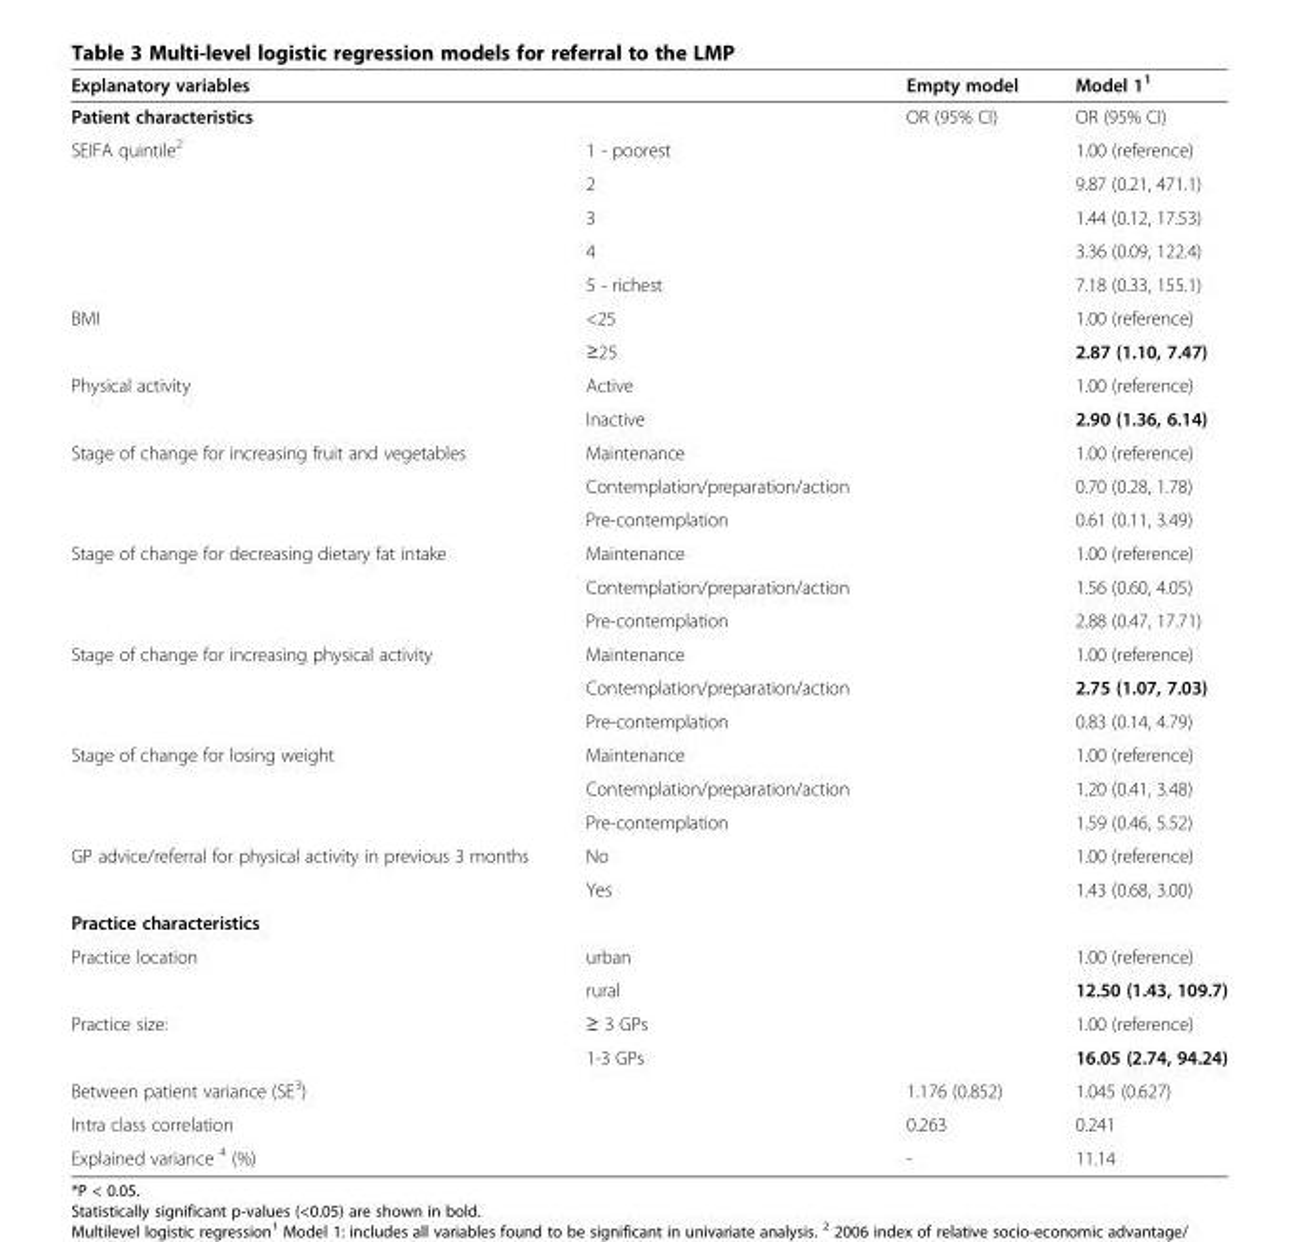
<table><thead><tr><td>Explanatory variables</td><td></td><td>Empty model</td><td>Model 1<sup>1</sup></td></tr></thead><tbody><tr><td>Patient characteristics</td><td></td><td>OR (95% CI)</td><td>OR (95% CI)</td></tr><tr><td rowspan="5">SEIFA quintile<sup>2</sup></td><td>1 - poorest</td><td></td><td>1.00 (reference)</td></tr><tr><td>2</td><td></td><td>9.87 (0.21, 471.1)</td></tr><tr><td>3</td><td></td><td>1.44 (0.12, 17.53)</td></tr><tr><td>4</td><td></td><td>3.36 (0.09, 122.4)</td></tr><tr><td>5 - richest</td><td></td><td>7.18 (0.33, 155.1)</td></tr><tr><td rowspan="2">BMI</td><td>&lt;25</td><td></td><td>1.00 (reference)</td></tr><tr><td>≥25</td><td></td><td>2.87 (1.10, 7.47)</td></tr><tr><td rowspan="2">Physical activity</td><td>Active</td><td></td><td>1.00 (reference)</td></tr><tr><td>Inactive</td><td></td><td>2.90 (1.36, 6.14)</td></tr><tr><td rowspan="3">Stage of change for increasing fruit and vegetables</td><td>Maintenance</td><td></td><td>1.00 (reference)</td></tr><tr><td>Contemplation/preparation/action</td><td></td><td>0.70 (0.28, 1.78)</td></tr><tr><td>Pre-contemplation</td><td></td><td>0.61 (0.11, 3.49)</td></tr><tr><td rowspan="3">Stage of change for decreasing dietary fat intake</td><td>Maintenance</td><td></td><td>1.00 (reference)</td></tr><tr><td>Contemplation/preparation/action</td><td></td><td>1.56 (0.60, 4.05)</td></tr><tr><td>Pre-contemplation</td><td></td><td>2.88 (0.47, 17.71)</td></tr><tr><td rowspan="3">Stage of change for increasing physical activity</td><td>Maintenance</td><td></td><td>1.00 (reference)</td></tr><tr><td>Contemplation/preparation/action</td><td></td><td>2.75 (1.07, 7.03)</td></tr><tr><td>Pre-contemplation</td><td></td><td>0.83 (0.14, 4.79)</td></tr><tr><td rowspan="3">Stage of change for losing weight</td><td>Maintenance</td><td></td><td>1.00 (reference)</td></tr><tr><td>Contemplation/preparation/action</td><td></td><td>1.20 (0.41, 3.48)</td></tr><tr><td>Pre-contemplation</td><td></td><td>1.59 (0.46, 5.52)</td></tr><tr><td rowspan="2">GP advice/referral for physical activity in previous 3 months</td><td>No</td><td></td><td>1.00 (reference)</td></tr><tr><td>Yes</td><td></td><td>1.43 (0.68, 3.00)</td></tr><tr><td colspan="4">Practice characteristics</td></tr><tr><td rowspan="2">Practice location</td><td>urban</td><td></td><td>1.00 (reference)</td></tr><tr><td>rural</td><td></td><td>12.50 (1.43, 109.7)</td></tr><tr><td rowspan="2">Practice size:</td><td>≥ 3 GPs</td><td></td><td>1.00 (reference)</td></tr><tr><td>1-3 GPs</td><td></td><td>16.05 (2.74, 94.24)</td></tr><tr><td>Between patient variance (SE<sup>3</sup>)</td><td></td><td>1.176 (0.852)</td><td>1.045 (0.627)</td></tr><tr><td>Intra class correlation</td><td></td><td>0.263</td><td>0.241</td></tr><tr><td>Explained variance <sup>4</sup> (%)</td><td></td><td>-</td><td>11.14</td></tr></tbody></table>